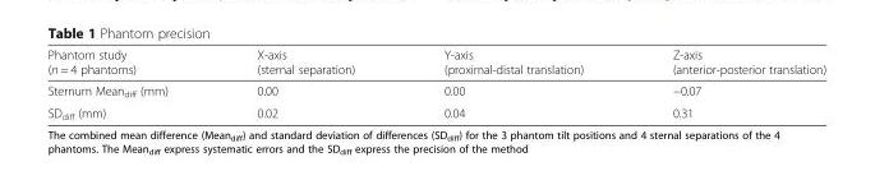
<table><thead><tr><td>Phantom study (n = 4 phantoms)</td><td>X-axis (sternal separation)</td><td>Y-axis (proximal-distal translation)</td><td>Z-axis (anterior-posterior translation)</td></tr></thead><tbody><tr><td>Sternum Mean<sub>diff</sub> (mm)</td><td>0.00</td><td>0.00</td><td>−0.07</td></tr><tr><td>SD<sub>diff</sub> (mm)</td><td>0.02</td><td>0.04</td><td>0.31</td></tr></tbody></table>